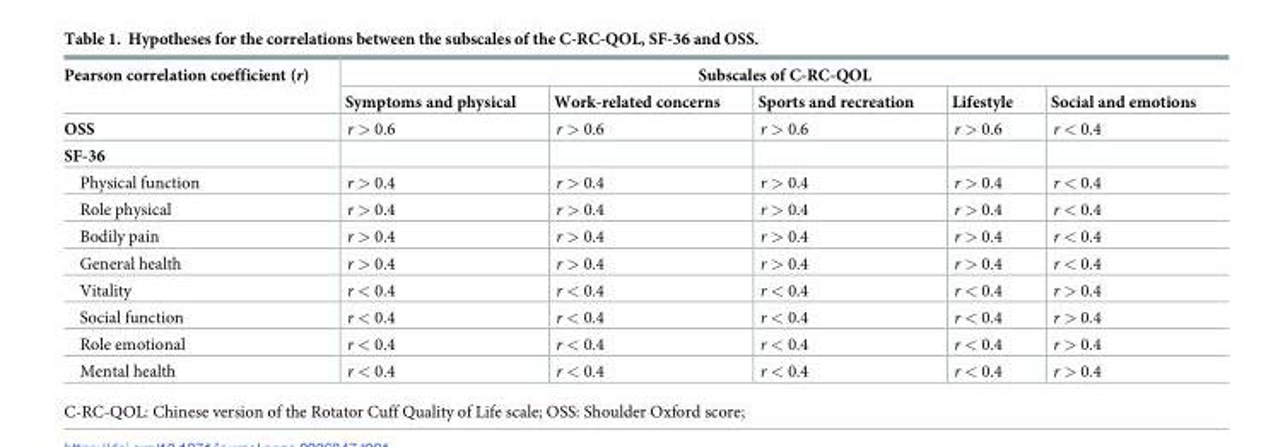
<table><thead><tr><td rowspan="2">Pearson correlation coefficient (r)</td><td colspan="5">Subscales of C-RC-QOL</td></tr><tr><td>Symptoms and physical</td><td>Work-related concerns</td><td>Sports and recreation</td><td>Lifestyle</td><td>Social and emotions</td></tr></thead><tbody><tr><td>OSS</td><td>r &gt; 0.6</td><td>r &gt; 0.6</td><td>r &gt; 0.6</td><td>r &gt; 0.6</td><td>r &lt; 0.4</td></tr><tr><td colspan="6">SF-36</td></tr><tr><td>Physical function</td><td>r &gt; 0.4</td><td>r &gt; 0.4</td><td>r &gt; 0.4</td><td>r &gt; 0.4</td><td>r &lt; 0.4</td></tr><tr><td>Role physical</td><td>r &gt; 0.4</td><td>r &gt; 0.4</td><td>r &gt; 0.4</td><td>r &gt; 0.4</td><td>r &lt; 0.4</td></tr><tr><td>Bodily pain</td><td>r &gt; 0.4</td><td>r &gt; 0.4</td><td>r &gt; 0.4</td><td>r &gt; 0.4</td><td>r &lt; 0.4</td></tr><tr><td>General health</td><td>r &gt; 0.4</td><td>r &gt; 0.4</td><td>r &gt; 0.4</td><td>r &gt; 0.4</td><td>r &lt; 0.4</td></tr><tr><td>Vitality</td><td>r &lt; 0.4</td><td>r &lt; 0.4</td><td>r &lt; 0.4</td><td>r &lt; 0.4</td><td>r &gt; 0.4</td></tr><tr><td>Social function</td><td>r &lt; 0.4</td><td>r &lt; 0.4</td><td>r &lt; 0.4</td><td>r &lt; 0.4</td><td>r &gt; 0.4</td></tr><tr><td>Role emotional</td><td>r &lt; 0.4</td><td>r &lt; 0.4</td><td>r &lt; 0.4</td><td>r &lt; 0.4</td><td>r &gt; 0.4</td></tr><tr><td>Mental health</td><td>r &lt; 0.4</td><td>r &lt; 0.4</td><td>r &lt; 0.4</td><td>r &lt; 0.4</td><td>r &gt; 0.4</td></tr></tbody></table>